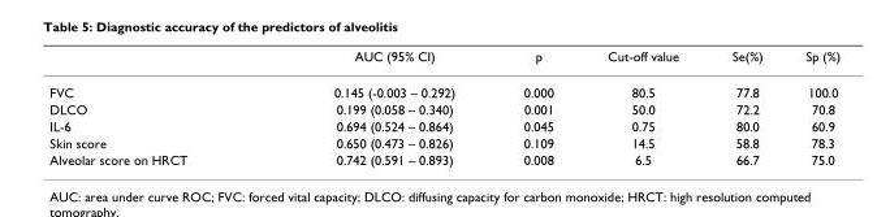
<table><thead><tr><td></td><td>AUC (95% CI)</td><td>p</td><td>Cut-off value</td><td>Se(%)</td><td>Sp (%)</td></tr></thead><tbody><tr><td>FVC</td><td>0.145 (-0.003 – 0.292)</td><td>0.000</td><td>80.5</td><td>77.8</td><td>100.0</td></tr><tr><td>DLCO</td><td>0.199 (0.058 – 0.340)</td><td>0.001</td><td>50.0</td><td>72.2</td><td>70.8</td></tr><tr><td>IL-6</td><td>0.694 (0.524 – 0.864)</td><td>0.045</td><td>0.75</td><td>80.0</td><td>60.9</td></tr><tr><td>Skin score</td><td>0.650 (0.473 – 0.826)</td><td>0.109</td><td>14.5</td><td>58.8</td><td>78.3</td></tr><tr><td>Alveolar score on HRCT</td><td>0.742 (0.591 – 0.893)</td><td>0.008</td><td>6.5</td><td>66.7</td><td>75.0</td></tr></tbody></table>